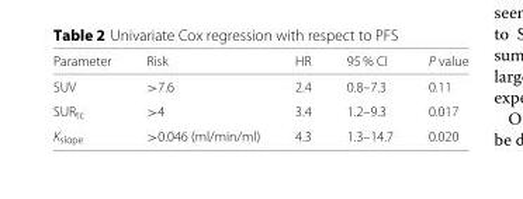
<table><thead><tr><td>Parameter</td><td>Risk</td><td>HR</td><td>95 % CI</td><td>P value</td></tr></thead><tbody><tr><td>SUV</td><td>&gt;7.6</td><td>2.4</td><td>0.8–7.3</td><td>0.11</td></tr><tr><td>SUR<sub>tc</sub></td><td>&gt;4</td><td>3.4</td><td>1.2–9.3</td><td>0.017</td></tr><tr><td>K<sub>slope</sub></td><td>&gt;0.046 (ml/min/ml)</td><td>4.3</td><td>1.3–14.7</td><td>0.020</td></tr></tbody></table>